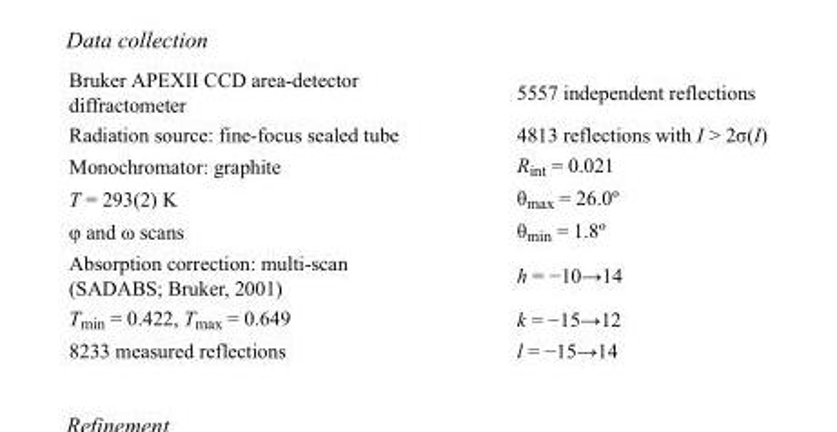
<table><tbody><tr><td>Bruker APEXII CCD area-detector diffractometer</td><td>5557 independent reflections</td></tr><tr><td>Radiation source: fine-focus sealed tube</td><td>4813 reflections with I &gt; 2σ(I)</td></tr><tr><td>Monochromator: graphite</td><td>Rint = 0.021</td></tr><tr><td>T = 293(2) K</td><td>θmax = 26.0º</td></tr><tr><td>φ and ω scans</td><td>θmin = 1.8º</td></tr><tr><td>Absorption correction: multi-scan (SADABS; Bruker, 2001)</td><td>h = −10→14</td></tr><tr><td>Tmin = 0.422, Tmax = 0.649</td><td>k = −15→12</td></tr><tr><td>8233 measured reflections</td><td>l = −15→14</td></tr></tbody></table>